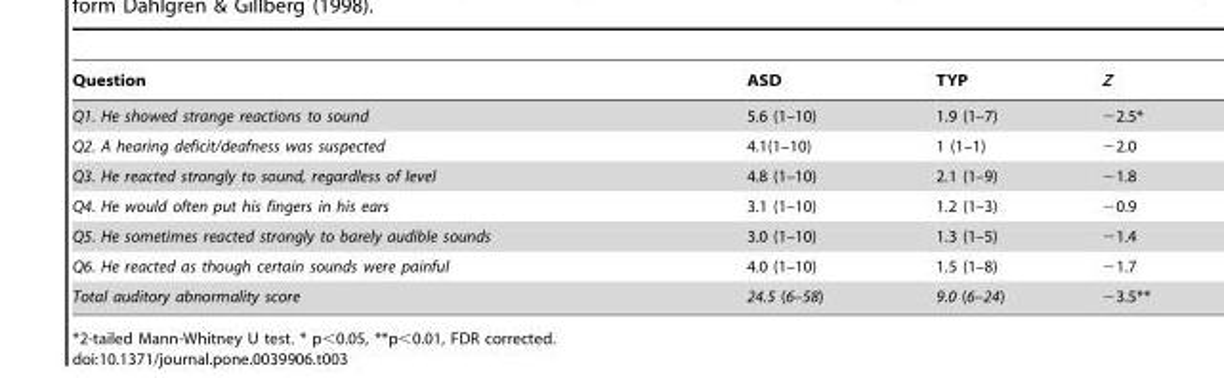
<table><thead><tr><td>Question</td><td>ASD</td><td>TYP</td><td>Z</td></tr></thead><tbody><tr><td>Q1. He showed strange reactions to sound</td><td>5.6 (1–10)</td><td>1.9 (1–7)</td><td>−2.5*</td></tr><tr><td>Q2. A hearing deficit/deafness was suspected</td><td>4.1(1–10)</td><td>1 (1–1)</td><td>−2.0</td></tr><tr><td>Q3. He reacted strongly to sound, regardless of level</td><td>4.8 (1–10)</td><td>2.1 (1–9)</td><td>−1.8</td></tr><tr><td>Q4. He would often put his fingers in his ears</td><td>3.1 (1–10)</td><td>1.2 (1–3)</td><td>−0.9</td></tr><tr><td>Q5. He sometimes reacted strongly to barely audible sounds</td><td>3.0 (1–10)</td><td>1.3 (1–5)</td><td>−1.4</td></tr><tr><td>Q6. He reacted as though certain sounds were painful</td><td>4.0 (1–10)</td><td>1.5 (1–8)</td><td>−1.7</td></tr><tr><td>Total auditory abnormality score</td><td>24.5 (6–58)</td><td>9.0 (6–24)</td><td>−3.5**</td></tr></tbody></table>